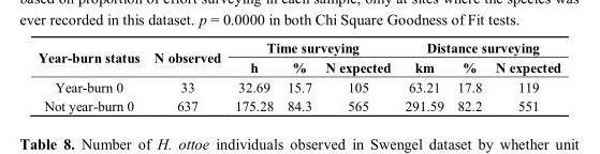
<table><thead><tr><td rowspan="2">Year-burn status</td><td rowspan="2">N observed</td><td colspan="3">Time surveying</td><td colspan="3">Distance surveying</td></tr><tr><td>h</td><td>%</td><td>N expected</td><td>km</td><td>%</td><td>N expected</td></tr></thead><tbody><tr><td>Year-burn 0</td><td>33</td><td>32.69</td><td>15.7</td><td>105</td><td>63.21</td><td>17.8</td><td>119</td></tr><tr><td>Not year-burn 0</td><td>637</td><td>175.28</td><td>84.3</td><td>565</td><td>291.59</td><td>82.2</td><td>551</td></tr></tbody></table>